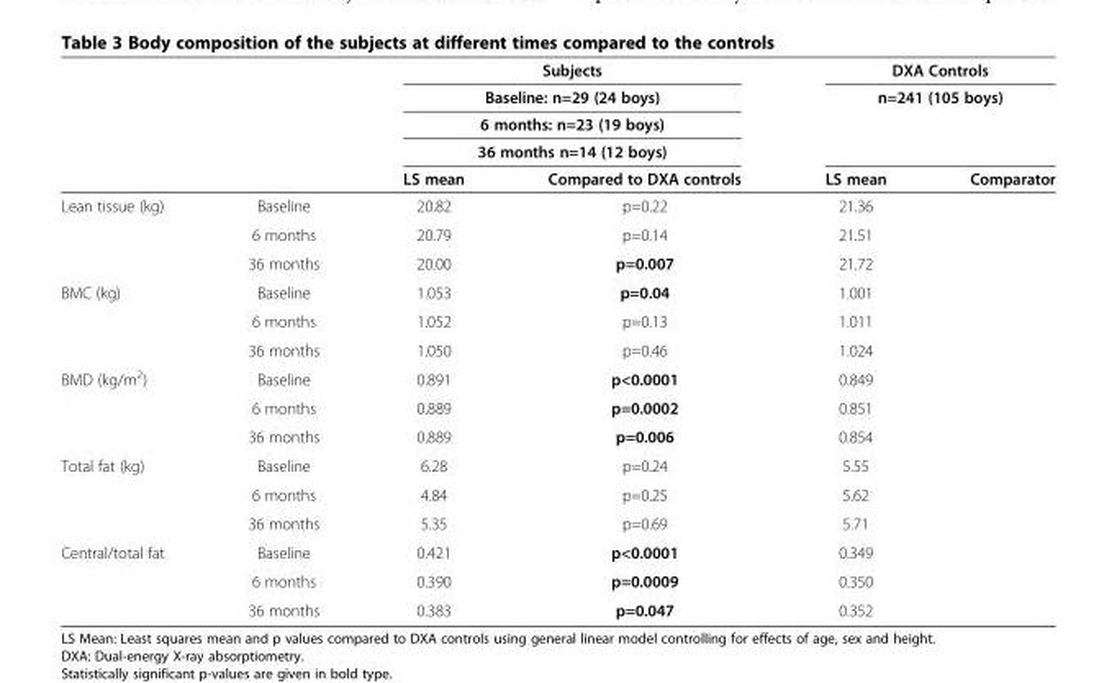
<table><thead><tr><td rowspan="5"></td><td rowspan="5"></td><td rowspan="4" colspan="2">Subjects Baseline: n=29 (24 boys) 6 months: n=23 (19 boys) 36 months n=14 (12 boys)</td><td rowspan="4" colspan="2">DXA Controls n=241 (105 boys)</td></tr><tr></tr><tr></tr><tr></tr><tr><td>LS mean</td><td>Compared to DXA controls</td><td>LS mean</td><td>Comparator</td></tr></thead><tbody><tr><td rowspan="3">Lean tissue (kg)</td><td>Baseline</td><td>20.82</td><td>p=0.22</td><td>21.36</td><td rowspan="3"></td></tr><tr><td>6 months</td><td>20.79</td><td>p=0.14</td><td>21.51</td></tr><tr><td>36 months</td><td>20.00</td><td>p=0.007</td><td>21.72</td></tr><tr><td rowspan="3">BMC (kg)</td><td>Baseline</td><td>1.053</td><td>p=0.04</td><td>1.001</td><td rowspan="3"></td></tr><tr><td>6 months</td><td>1.052</td><td>p=0.13</td><td>1.011</td></tr><tr><td>36 months</td><td>1.050</td><td>p=0.46</td><td>1.024</td></tr><tr><td rowspan="3">BMD (kg/m<sup>2</sup>)</td><td>Baseline</td><td>0.891</td><td>p&lt;0.0001</td><td>0.849</td><td rowspan="3"></td></tr><tr><td>6 months</td><td>0.889</td><td>p=0.0002</td><td>0.851</td></tr><tr><td>36 months</td><td>0.889</td><td>p=0.006</td><td>0.854</td></tr><tr><td rowspan="3">Total fat (kg)</td><td>Baseline</td><td>6.28</td><td>p=0.24</td><td>5.55</td><td rowspan="3"></td></tr><tr><td>6 months</td><td>4.84</td><td>p=0.25</td><td>5.62</td></tr><tr><td>36 months</td><td>5.35</td><td>p=0.69</td><td>5.71</td></tr><tr><td rowspan="3">Central/total fat</td><td>Baseline</td><td>0.421</td><td>p&lt;0.0001</td><td>0.349</td><td rowspan="3"></td></tr><tr><td>6 months</td><td>0.390</td><td>p=0.0009</td><td>0.350</td></tr><tr><td>36 months</td><td>0.383</td><td>p=0.047</td><td>0.352</td></tr></tbody></table>